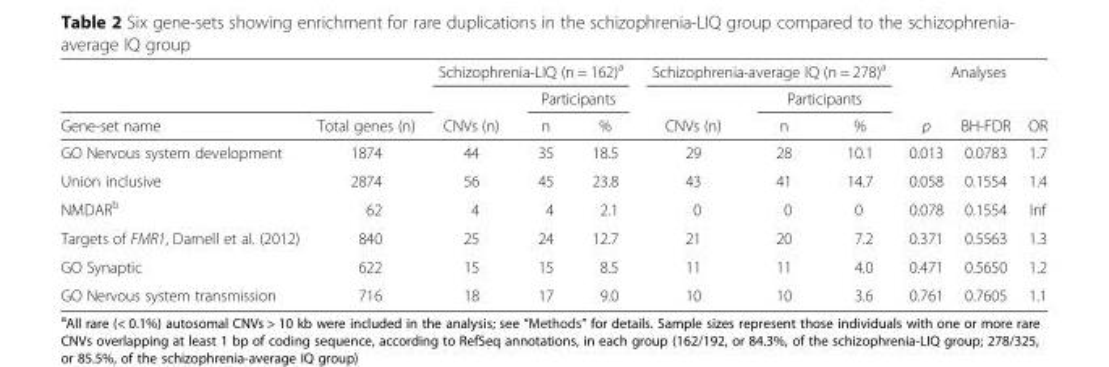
<table><thead><tr><td rowspan="3">Gene-set name</td><td rowspan="3">Total genes (n)</td><td colspan="3">Schizophrenia-LIQ (n = 162)<sup>a</sup></td><td colspan="3">Schizophrenia-average IQ (n = 278)<sup>a</sup></td><td rowspan="2" colspan="3">Analyses</td></tr><tr><td rowspan="2">CNVs (n)</td><td colspan="2">Participants</td><td rowspan="2">CNVs (n)</td><td colspan="2">Participants</td></tr><tr><td>n</td><td>%</td><td>n</td><td>%</td><td>p</td><td>BH-FDR</td><td>OR</td></tr></thead><tbody><tr><td>GO Nervous system development</td><td>1874</td><td>44</td><td>35</td><td>18.5</td><td>29</td><td>28</td><td>10.1</td><td>0.013</td><td>0.0783</td><td>1.7</td></tr><tr><td>Union inclusive</td><td>2874</td><td>56</td><td>45</td><td>23.8</td><td>43</td><td>41</td><td>14.7</td><td>0.058</td><td>0.1554</td><td>1.4</td></tr><tr><td>NMDAR<sup>b</sup></td><td>62</td><td>4</td><td>4</td><td>2.1</td><td>0</td><td>0</td><td>0</td><td>0.078</td><td>0.1554</td><td>Inf</td></tr><tr><td>Targets of FMR1, Darnell et al. (2012)</td><td>840</td><td>25</td><td>24</td><td>12.7</td><td>21</td><td>20</td><td>7.2</td><td>0.371</td><td>0.5563</td><td>1.3</td></tr><tr><td>GO Synaptic</td><td>622</td><td>15</td><td>15</td><td>8.5</td><td>11</td><td>11</td><td>4.0</td><td>0.471</td><td>0.5650</td><td>1.2</td></tr><tr><td>GO Nervous system transmission</td><td>716</td><td>18</td><td>17</td><td>9.0</td><td>10</td><td>10</td><td>3.6</td><td>0.761</td><td>0.7605</td><td>1.1</td></tr></tbody></table>